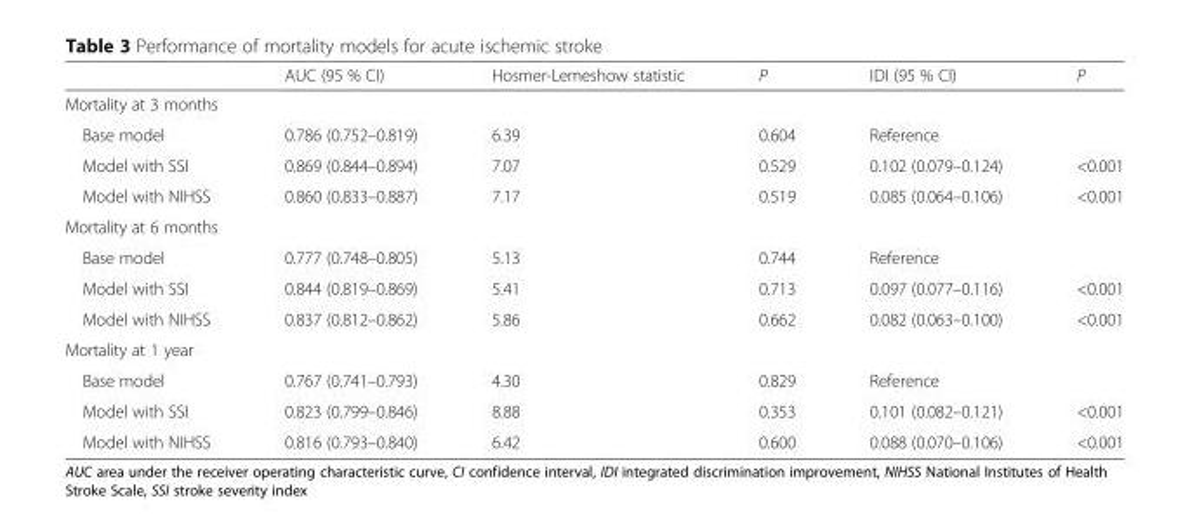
<table><thead><tr><td></td><td>AUC (95 % CI)</td><td>Hosmer-Lemeshow statistic</td><td>P</td><td>IDI (95 % CI)</td><td>P</td></tr></thead><tbody><tr><td colspan="6">Mortality at 3 months</td></tr><tr><td>Base model</td><td>0.786 (0.752–0.819)</td><td>6.39</td><td>0.604</td><td>Reference</td><td></td></tr><tr><td>Model with SSI</td><td>0.869 (0.844–0.894)</td><td>7.07</td><td>0.529</td><td>0.102 (0.079–0.124)</td><td>&lt;0.001</td></tr><tr><td>Model with NIHSS</td><td>0.860 (0.833–0.887)</td><td>7.17</td><td>0.519</td><td>0.085 (0.064–0.106)</td><td>&lt;0.001</td></tr><tr><td colspan="6">Mortality at 6 months</td></tr><tr><td>Base model</td><td>0.777 (0.748–0.805)</td><td>5.13</td><td>0.744</td><td>Reference</td><td></td></tr><tr><td>Model with SSI</td><td>0.844 (0.819–0.869)</td><td>5.41</td><td>0.713</td><td>0.097 (0.077–0.116)</td><td>&lt;0.001</td></tr><tr><td>Model with NIHSS</td><td>0.837 (0.812–0.862)</td><td>5.86</td><td>0.662</td><td>0.082 (0.063–0.100)</td><td>&lt;0.001</td></tr><tr><td colspan="6">Mortality at 1 year</td></tr><tr><td>Base model</td><td>0.767 (0.741–0.793)</td><td>4.30</td><td>0.829</td><td>Reference</td><td></td></tr><tr><td>Model with SSI</td><td>0.823 (0.799–0.846)</td><td>8.88</td><td>0.353</td><td>0.101 (0.082–0.121)</td><td>&lt;0.001</td></tr><tr><td>Model with NIHSS</td><td>0.816 (0.793–0.840)</td><td>6.42</td><td>0.600</td><td>0.088 (0.070–0.106)</td><td>&lt;0.001</td></tr></tbody></table>